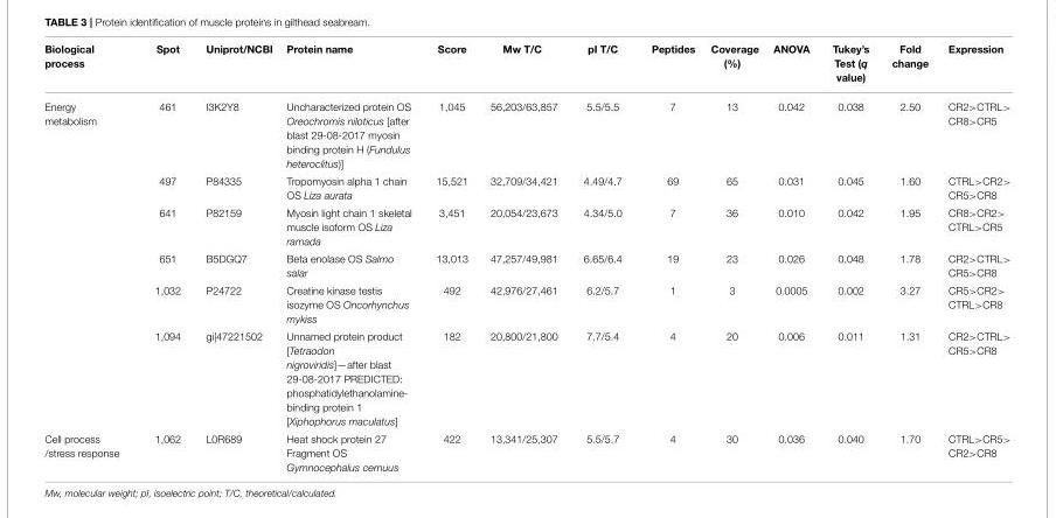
<table><thead><tr><td>Biological process</td><td>Spot</td><td>Uniprot/NCBI</td><td>Protein name</td><td>Score</td><td>Mw T/C</td><td>pI T/C</td><td>Peptides</td><td>Coverage (%)</td><td>ANOVA</td><td>Tukey’s Test (q value)</td><td>Fold change</td><td>Expression</td></tr></thead><tbody><tr><td rowspan="6">Energy metabolism</td><td>461</td><td>I3K2Y8</td><td>Uncharacterized protein OS Oreochromis niloticus [after blast 29-08-2017 myosin binding protein H (Fundulus heteroclitus)]</td><td>1,045</td><td>56,203/63,857</td><td>5.5/5.5</td><td>7</td><td>13</td><td>0.042</td><td>0.038</td><td>2.50</td><td>CR2&gt;CTRL&gt; CR8&gt;CR5</td></tr><tr><td>497</td><td>P84335</td><td>Tropomyosin alpha 1 chain OS Liza aurata</td><td>15,521</td><td>32,709/34,421</td><td>4.49/4.7</td><td>69</td><td>65</td><td>0.031</td><td>0.045</td><td>1.60</td><td>CTRL&gt;CR2&gt; CR5&gt;CR8</td></tr><tr><td>641</td><td>P82159</td><td>Myosin light chain 1 skeletal muscle isoform OS Liza ramada</td><td>3,451</td><td>20,054/23,673</td><td>4.34/5.0</td><td>7</td><td>36</td><td>0.010</td><td>0.042</td><td>1.95</td><td>CR8&gt;CR2&gt; CTRL&gt;CR5</td></tr><tr><td>651</td><td>B5DGQ7</td><td>Beta enolase OS Salmo salar</td><td>13,013</td><td>47,257/49,981</td><td>6.65/6.4</td><td>19</td><td>23</td><td>0.026</td><td>0.048</td><td>1.78</td><td>CR2&gt;CTRL&gt; CR5&gt;CR8</td></tr><tr><td>1,032</td><td>P24722</td><td>Creatine kinase testis isozyme OS Oncorhynchus mykiss</td><td>492</td><td>42,976/27,461</td><td>6.2/5.7</td><td>1</td><td>3</td><td>0.0005</td><td>0.002</td><td>3.27</td><td>CR5&gt;CR2&gt; CTRL&gt;CR8</td></tr><tr><td>1,094</td><td>gi|47221502</td><td>Unnamed protein product [Tetraodon nigroviridis]—after blast 29-08-2017 PREDICTED: phosphatidylethanolamine- binding protein 1 [Xiphophorus maculatus]</td><td>182</td><td>20,800/21,800</td><td>7.7/5.4</td><td>4</td><td>20</td><td>0.006</td><td>0.011</td><td>1.31</td><td>CR2&gt;CTRL&gt; CR5&gt;CR8</td></tr><tr><td>Cell process /stress response</td><td>1,062</td><td>L0R689</td><td>Heat shock protein 27 Fragment OS Gymnocephalus cernuus</td><td>422</td><td>13,341/25,307</td><td>5.5/5.7</td><td>4</td><td>30</td><td>0.036</td><td>0.040</td><td>1.70</td><td>CTRL&gt;CR5&gt; CR2&gt;CR8</td></tr></tbody></table>